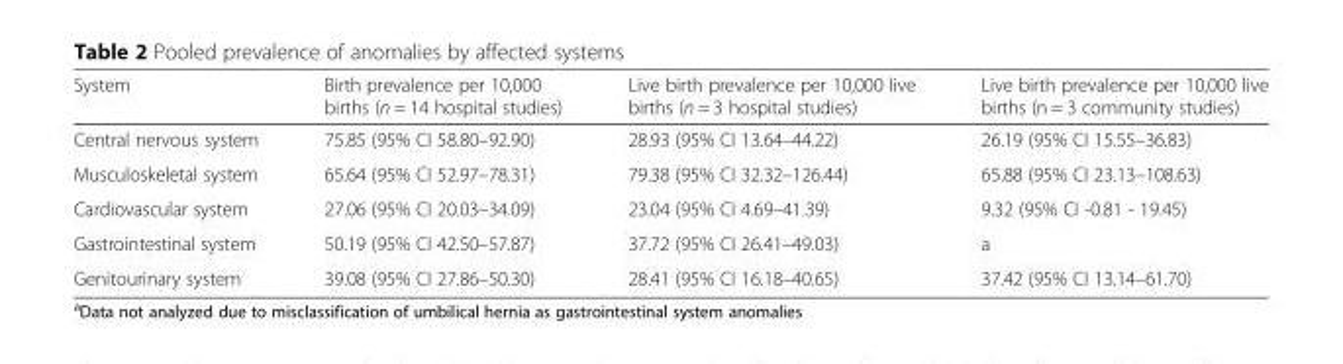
<table><thead><tr><td>System</td><td>Birth prevalence per 10,000 births (n = 14 hospital studies)</td><td>Live birth prevalence per 10,000 live births (n = 3 hospital studies)</td><td>Live birth prevalence per 10,000 live births (n = 3 community studies)</td></tr></thead><tbody><tr><td>Central nervous system</td><td>75.85 (95% CI 58.80–92.90)</td><td>28.93 (95% CI 13.64–44.22)</td><td>26.19 (95% CI 15.55–36.83)</td></tr><tr><td>Musculoskeletal system</td><td>65.64 (95% CI 52.97–78.31)</td><td>79.38 (95% CI 32.32–126.44)</td><td>65.88 (95% CI 23.13–108.63)</td></tr><tr><td>Cardiovascular system</td><td>27.06 (95% CI 20.03–34.09)</td><td>23.04 (95% CI 4.69–41.39)</td><td>9.32 (95% CI -0.81 - 19.45)</td></tr><tr><td>Gastrointestinal system</td><td>50.19 (95% CI 42.50–57.87)</td><td>37.72 (95% CI 26.41–49.03)</td><td>a</td></tr><tr><td>Genitourinary system</td><td>39.08 (95% CI 27.86–50.30)</td><td>28.41 (95% CI 16.18–40.65)</td><td>37.42 (95% CI 13.14–61.70)</td></tr></tbody></table>